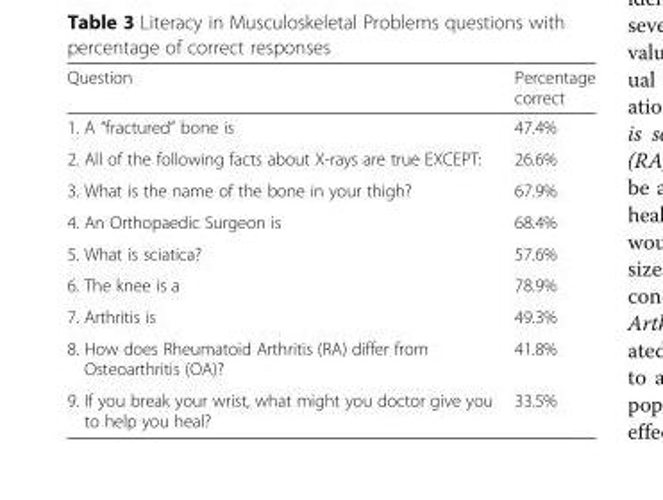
<table><thead><tr><td>Question</td><td>Percentage correct</td></tr></thead><tbody><tr><td>1. A “fractured” bone is</td><td>47.4%</td></tr><tr><td>2. All of the following facts about X-rays are true EXCEPT:</td><td>26.6%</td></tr><tr><td>3. What is the name of the bone in your thigh?</td><td>67.9%</td></tr><tr><td>4. An Orthopaedic Surgeon is</td><td>68.4%</td></tr><tr><td>5. What is sciatica?</td><td>57.6%</td></tr><tr><td>6. The knee is a</td><td>78.9%</td></tr><tr><td>7. Arthritis is</td><td>49.3%</td></tr><tr><td>8. How does Rheumatoid Arthritis (RA) differ from Osteoarthritis (OA)?</td><td>41.8%</td></tr><tr><td>9. If you break your wrist, what might you doctor give you to help you heal?</td><td>33.5%</td></tr></tbody></table>